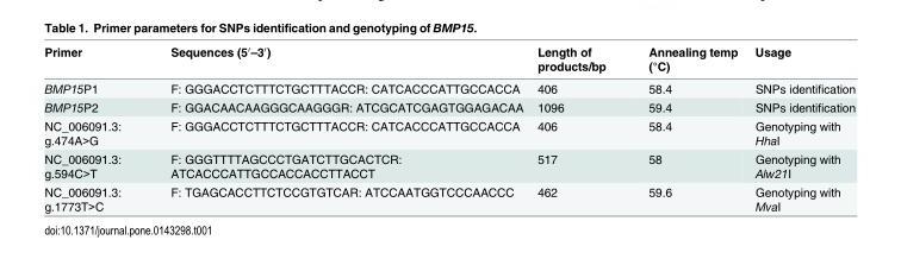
<table><thead><tr><td>Primer</td><td>Sequences (5′–3′)</td><td>Length of products/bp</td><td>Annealing temp (°C)</td><td>Usage</td></tr></thead><tbody><tr><td>BMP15P1</td><td>F: GGGACCTCTTTCTGCTTTACCR: CATCACCCATTGCCACCA</td><td>406</td><td>58.4</td><td>SNPs identification</td></tr><tr><td>BMP15P2</td><td>F: GGACAACAAGGGCAAGGGR: ATCGCATCGAGTGGAGACAA</td><td>1096</td><td>59.4</td><td>SNPs identification</td></tr><tr><td>NC_006091.3: g.474A&gt;G</td><td>F: GGGACCTCTTTCTGCTTTACCR: CATCACCCATTGCCACCA</td><td>406</td><td>58.4</td><td>Genotyping with HhaI</td></tr><tr><td>NC_006091.3: g.594C&gt;T</td><td>F: GGGTTTTAGCCCTGATCTTGCACTCR: ATCACCCATTGCCACCACCTTACCT</td><td>517</td><td>58</td><td>Genotyping with Alw21I</td></tr><tr><td>NC_006091.3: g.1773T&gt;C</td><td>F: TGAGCACCTTCTCCGTGTCAR: ATCCAATGGTCCCAACCC</td><td>462</td><td>59.6</td><td>Genotyping with MvaI</td></tr></tbody></table>